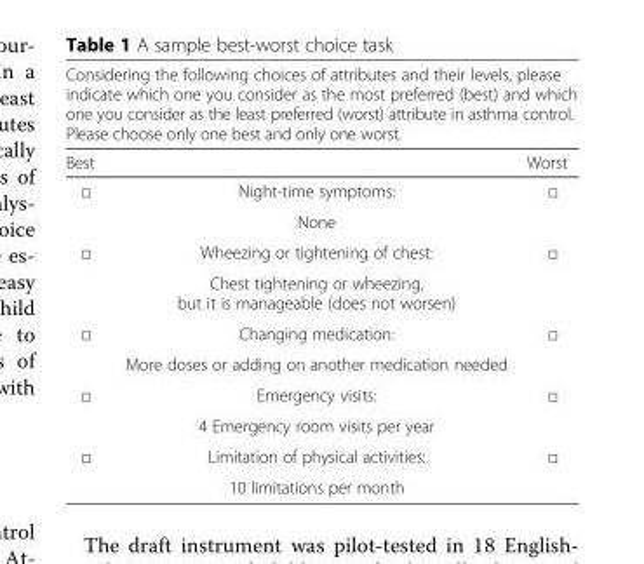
<table><thead><tr><td colspan="3">Considering the following choices of attributes and their levels, please indicate which one you consider as the most preferred (best) and which one you consider as the least preferred (worst) attribute in asthma control. Please choose only one best and only one worst.</td></tr><tr><td>Best</td><td></td><td>Worst</td></tr></thead><tbody><tr><td rowspan="2">□</td><td>Night-time symptoms:</td><td rowspan="2">□</td></tr><tr><td>None</td></tr><tr><td rowspan="2">□</td><td>Wheezing or tightening of chest:</td><td rowspan="2">□</td></tr><tr><td>Chest tightening or wheezing, but it is manageable (does not worsen)</td></tr><tr><td rowspan="2">□</td><td>Changing medication:</td><td rowspan="2">□</td></tr><tr><td>More doses or adding on another medication needed</td></tr><tr><td rowspan="2">□</td><td>Emergency visits:</td><td rowspan="2">□</td></tr><tr><td>4 Emergency room visits per year</td></tr><tr><td rowspan="2">□</td><td>Limitation of physical activities:</td><td rowspan="2">□</td></tr><tr><td>10 limitations per month</td></tr></tbody></table>